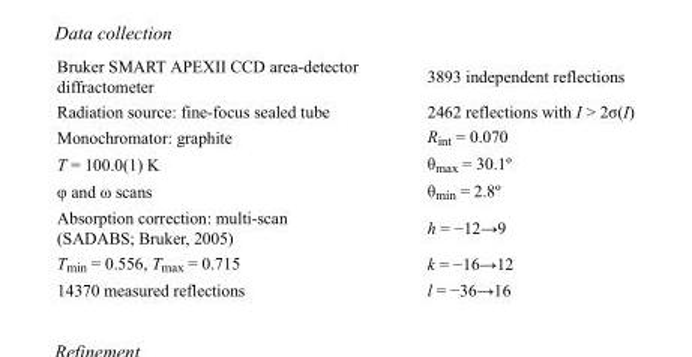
<table><tbody><tr><td>Bruker SMART APEXII CCD area-detector diffractometer</td><td>3893 independent reflections</td></tr><tr><td>Radiation source: fine-focus sealed tube</td><td>2462 reflections with I &gt; 2σ(I)</td></tr><tr><td>Monochromator: graphite</td><td>R<sub>int</sub> = 0.070</td></tr><tr><td>T = 100.0(1) K</td><td>θ<sub>max</sub> = 30.1º</td></tr><tr><td>φ and ω scans</td><td>θ<sub>min</sub> = 2.8º</td></tr><tr><td>Absorption correction: multi-scan (SADABS; Bruker, 2005)</td><td>h = −12→9</td></tr><tr><td>T<sub>min</sub> = 0.556, T<sub>max</sub> = 0.715</td><td>k = −16→12</td></tr><tr><td>14370 measured reflections</td><td>l = −36→16</td></tr></tbody></table>